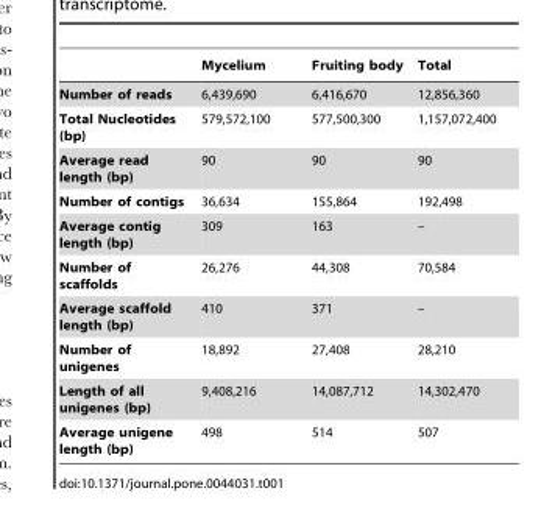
<table><thead><tr><td></td><td>Mycelium</td><td>Fruiting body</td><td>Total</td></tr></thead><tbody><tr><td>Number of reads</td><td>6,439,690</td><td>6,416,670</td><td>12,856,360</td></tr><tr><td>Total Nucleotides (bp)</td><td>579,572,100</td><td>577,500,300</td><td>1,157,072,400</td></tr><tr><td>Average read length (bp)</td><td>90</td><td>90</td><td>90</td></tr><tr><td>Number of contigs</td><td>36,634</td><td>155,864</td><td>192,498</td></tr><tr><td>Average contig length (bp)</td><td>309</td><td>163</td><td>–</td></tr><tr><td>Number of scaffolds</td><td>26,276</td><td>44,308</td><td>70,584</td></tr><tr><td>Average scaffold length (bp)</td><td>410</td><td>371</td><td>–</td></tr><tr><td>Number of unigenes</td><td>18,892</td><td>27,408</td><td>28,210</td></tr><tr><td>Length of all unigenes (bp)</td><td>9,408,216</td><td>14,087,712</td><td>14,302,470</td></tr><tr><td>Average unigene length (bp)</td><td>498</td><td>514</td><td>507</td></tr></tbody></table>